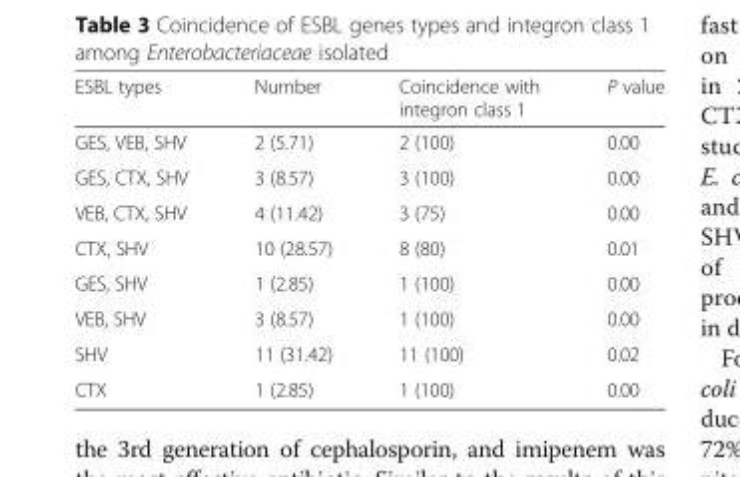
<table><thead><tr><td>ESBL types</td><td>Number</td><td>Coincidence with integron class 1</td><td>P value</td></tr></thead><tbody><tr><td>GES, VEB, SHV</td><td>2 (5.71)</td><td>2 (100)</td><td>0.00</td></tr><tr><td>GES, CTX, SHV</td><td>3 (8.57)</td><td>3 (100)</td><td>0.00</td></tr><tr><td>VEB, CTX, SHV</td><td>4 (11.42)</td><td>3 (75)</td><td>0.00</td></tr><tr><td>CTX, SHV</td><td>10 (28.57)</td><td>8 (80)</td><td>0.01</td></tr><tr><td>GES, SHV</td><td>1 (2.85)</td><td>1 (100)</td><td>0.00</td></tr><tr><td>VEB, SHV</td><td>3 (8.57)</td><td>1 (100)</td><td>0.00</td></tr><tr><td>SHV</td><td>11 (31.42)</td><td>11 (100)</td><td>0.02</td></tr><tr><td>CTX</td><td>1 (2.85)</td><td>1 (100)</td><td>0.00</td></tr></tbody></table>